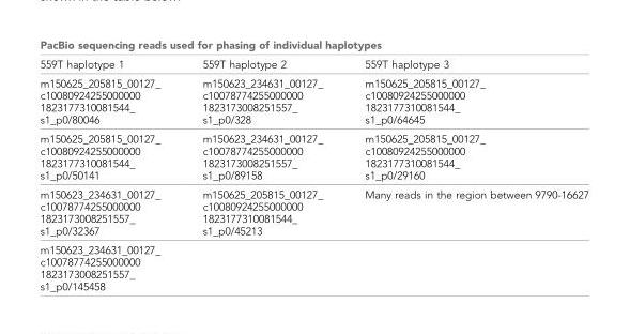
<table><thead><tr><td colspan="3">PacBio sequencing reads used for phasing of individual haplotypes</td></tr><tr><td>559T haplotype 1</td><td>559T haplotype 2</td><td>559T haplotype 3</td></tr></thead><tbody><tr><td>m150625_205815_00127_ c10080924255000000 1823177310081544_ s1_p0/80046</td><td>m150623_234631_00127_ c10078774255000000 1823173008251557_ s1_p0/328</td><td>m150625_205815_00127_ c10080924255000000 1823177310081544_ s1_p0/64645</td></tr><tr><td>m150625_205815_00127_ c10080924255000000 1823177310081544_ s1_p0/50141</td><td>m150623_234631_00127_ c10078774255000000 1823173008251557_ s1_p0/89158</td><td>m150625_205815_00127_ c10080924255000000 1823177310081544_ s1_p0/29160</td></tr><tr><td>m150623_234631_00127_ c10078774255000000 1823173008251557_ s1_p0/32367</td><td>m150625_205815_00127_ c10080924255000000 1823177310081544_ s1_p0/45213</td><td>Many reads in the region between 9790-16627</td></tr><tr><td>m150623_234631_00127_ c10078774255000000 1823173008251557_ s1_p0/145458</td><td></td><td></td></tr></tbody></table>